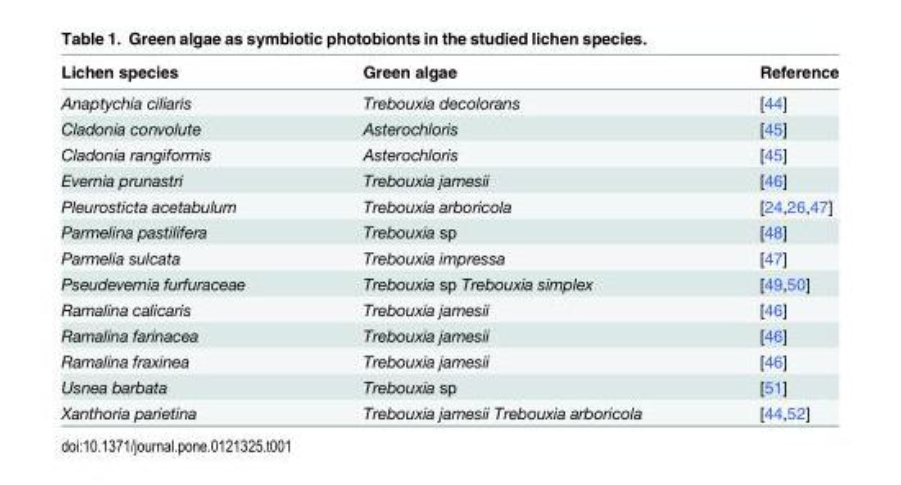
<table><thead><tr><td>Lichen species</td><td>Green algae</td><td>Reference</td></tr></thead><tbody><tr><td>Anaptychia ciliaris</td><td>Trebouxia decolorans</td><td>[44]</td></tr><tr><td>Cladonia convolute</td><td>Asterochloris</td><td>[45]</td></tr><tr><td>Cladonia rangiformis</td><td>Asterochloris</td><td>[45]</td></tr><tr><td>Evernia prunastri</td><td>Trebouxia jamesii</td><td>[46]</td></tr><tr><td>Pleurosticta acetabulum</td><td>Trebouxia arboricola</td><td>[24,26,47]</td></tr><tr><td>Parmelina pastilifera</td><td>Trebouxia sp</td><td>[48]</td></tr><tr><td>Parmelia sulcata</td><td>Trebouxia impressa</td><td>[47]</td></tr><tr><td>Pseudevernia furfuraceae</td><td>Trebouxia sp Trebouxia simplex</td><td>[49,50]</td></tr><tr><td>Ramalina calicaris</td><td>Trebouxia jamesii</td><td>[46]</td></tr><tr><td>Ramalina farinacea</td><td>Trebouxia jamesii</td><td>[46]</td></tr><tr><td>Ramalina fraxinea</td><td>Trebouxia jamesii</td><td>[46]</td></tr><tr><td>Usnea barbata</td><td>Trebouxia sp</td><td>[51]</td></tr><tr><td>Xanthoria parietina</td><td>Trebouxia jamesii Trebouxia arboricola</td><td>[44,52]</td></tr></tbody></table>